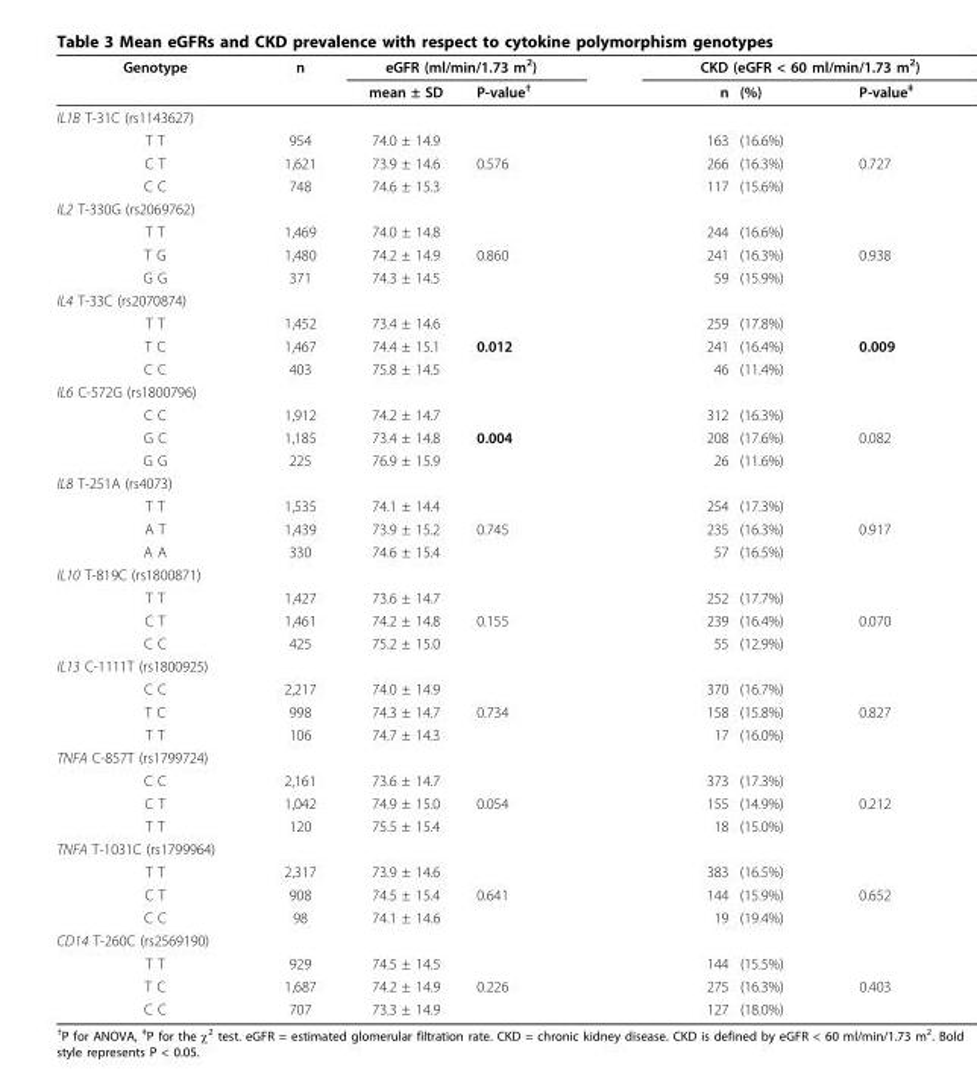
<table><thead><tr><td rowspan="2">Genotype</td><td rowspan="2">n</td><td colspan="2">eGFR (ml/min/1.73 m<sup>2</sup>)</td><td colspan="3">CKD (eGFR &lt; 60 ml/min/1.73 m<sup>2</sup>)</td></tr><tr><td>mean ± SD</td><td>P-value<sup>†</sup></td><td>n</td><td>(%)</td><td>P-value<sup>‡</sup></td></tr></thead><tbody><tr><td colspan="7">IL1B T-31C (rs1143627)</td></tr><tr><td>T T</td><td>954</td><td>74.0 ± 14.9</td><td></td><td>163</td><td>(16.6%)</td><td></td></tr><tr><td>C T</td><td>1,621</td><td>73.9 ± 14.6</td><td>0.576</td><td>266</td><td>(16.3%)</td><td>0.727</td></tr><tr><td>C C</td><td>748</td><td>74.6 ± 15.3</td><td></td><td>117</td><td>(15.6%)</td><td></td></tr><tr><td colspan="7">IL2 T-330G (rs2069762)</td></tr><tr><td>T T</td><td>1,469</td><td>74.0 ± 14.8</td><td></td><td>244</td><td>(16.6%)</td><td></td></tr><tr><td>T G</td><td>1,480</td><td>74.2 ± 14.9</td><td>0.860</td><td>241</td><td>(16.3%)</td><td>0.938</td></tr><tr><td>G G</td><td>371</td><td>74.3 ± 14.5</td><td></td><td>59</td><td>(15.9%)</td><td></td></tr><tr><td colspan="7">IL4 T-33C (rs2070874)</td></tr><tr><td>T T</td><td>1,452</td><td>73.4 ± 14.6</td><td></td><td>259</td><td>(17.8%)</td><td></td></tr><tr><td>T C</td><td>1,467</td><td>74.4 ± 15.1</td><td>0.012</td><td>241</td><td>(16.4%)</td><td>0.009</td></tr><tr><td>C C</td><td>403</td><td>75.8 ± 14.5</td><td></td><td>46</td><td>(11.4%)</td><td></td></tr><tr><td colspan="7">IL6 C-572G (rs1800796)</td></tr><tr><td>C C</td><td>1,912</td><td>74.2 ± 14.7</td><td></td><td>312</td><td>(16.3%)</td><td></td></tr><tr><td>G C</td><td>1,185</td><td>73.4 ± 14.8</td><td>0.004</td><td>208</td><td>(17.6%)</td><td>0.082</td></tr><tr><td>G G</td><td>225</td><td>76.9 ± 15.9</td><td></td><td>26</td><td>(11.6%)</td><td></td></tr><tr><td colspan="7">IL8 T-251A (rs4073)</td></tr><tr><td>T T</td><td>1,535</td><td>74.1 ± 14.4</td><td></td><td>254</td><td>(17.3%)</td><td></td></tr><tr><td>A T</td><td>1,439</td><td>73.9 ± 15.2</td><td>0.745</td><td>235</td><td>(16.3%)</td><td>0.917</td></tr><tr><td>A A</td><td>330</td><td>74.6 ± 15.4</td><td></td><td>57</td><td>(16.5%)</td><td></td></tr><tr><td colspan="7">IL10 T-819C (rs1800871)</td></tr><tr><td>T T</td><td>1,427</td><td>73.6 ± 14.7</td><td></td><td>252</td><td>(17.7%)</td><td></td></tr><tr><td>C T</td><td>1,461</td><td>74.2 ± 14.8</td><td>0.155</td><td>239</td><td>(16.4%)</td><td>0.070</td></tr><tr><td>C C</td><td>425</td><td>75.2 ± 15.0</td><td></td><td>55</td><td>(12.9%)</td><td></td></tr><tr><td colspan="7">IL13 C-1111T (rs1800925)</td></tr><tr><td>C C</td><td>2,217</td><td>74.0 ± 14.9</td><td></td><td>370</td><td>(16.7%)</td><td></td></tr><tr><td>T C</td><td>998</td><td>74.3 ± 14.7</td><td>0.734</td><td>158</td><td>(15.8%)</td><td>0.827</td></tr><tr><td>T T</td><td>106</td><td>74.7 ± 14.3</td><td></td><td>17</td><td>(16.0%)</td><td></td></tr><tr><td colspan="7">TNFA C-857T (rs1799724)</td></tr><tr><td>C C</td><td>2,161</td><td>73.6 ± 14.7</td><td></td><td>373</td><td>(17.3%)</td><td></td></tr><tr><td>C T</td><td>1,042</td><td>74.9 ± 15.0</td><td>0.054</td><td>155</td><td>(14.9%)</td><td>0.212</td></tr><tr><td>T T</td><td>120</td><td>75.5 ± 15.4</td><td></td><td>18</td><td>(15.0%)</td><td></td></tr><tr><td colspan="7">TNFA T-1031C (rs1799964)</td></tr><tr><td>T T</td><td>2,317</td><td>73.9 ± 14.6</td><td></td><td>383</td><td>(16.5%)</td><td></td></tr><tr><td>C T</td><td>908</td><td>74.5 ± 15.4</td><td>0.641</td><td>144</td><td>(15.9%)</td><td>0.652</td></tr><tr><td>C C</td><td>98</td><td>74.1 ± 14.6</td><td></td><td>19</td><td>(19.4%)</td><td></td></tr><tr><td colspan="7">CD14 T-260C (rs2569190)</td></tr><tr><td>T T</td><td>929</td><td>74.5 ± 14.5</td><td></td><td>144</td><td>(15.5%)</td><td></td></tr><tr><td>T C</td><td>1,687</td><td>74.2 ± 14.9</td><td>0.226</td><td>275</td><td>(16.3%)</td><td>0.403</td></tr><tr><td>C C</td><td>707</td><td>73.3 ± 14.9</td><td></td><td>127</td><td>(18.0%)</td><td></td></tr></tbody></table>